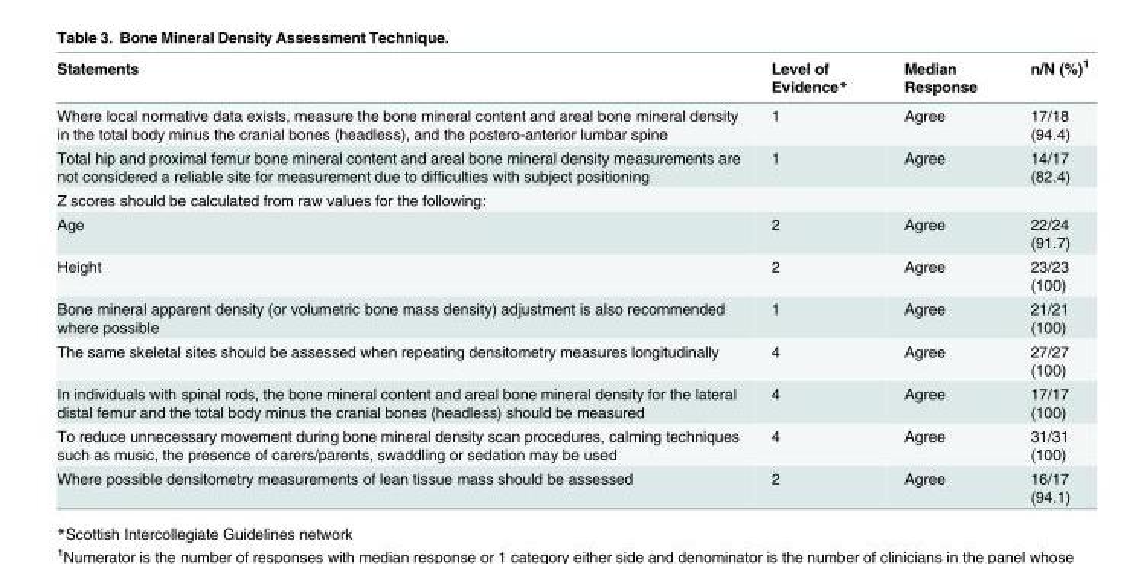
<table><thead><tr><td>Statements</td><td>Level of Evidence*</td><td>Median Response</td><td>n/N (%)<sup>1</sup></td></tr></thead><tbody><tr><td>Where local normative data exists, measure the bone mineral content and areal bone mineral density in the total body minus the cranial bones (headless), and the postero-anterior lumbar spine</td><td>1</td><td>Agree</td><td>17/18 (94.4)</td></tr><tr><td>Total hip and proximal femur bone mineral content and areal bone mineral density measurements are not considered a reliable site for measurement due to difficulties with subject positioning</td><td>1</td><td>Agree</td><td>14/17 (82.4)</td></tr><tr><td colspan="4">Z scores should be calculated from raw values for the following:</td></tr><tr><td>Age</td><td>2</td><td>Agree</td><td>22/24 (91.7)</td></tr><tr><td>Height</td><td>2</td><td>Agree</td><td>23/23 (100)</td></tr><tr><td>Bone mineral apparent density (or volumetric bone mass density) adjustment is also recommended where possible</td><td>1</td><td>Agree</td><td>21/21 (100)</td></tr><tr><td>The same skeletal sites should be assessed when repeating densitometry measures longitudinally</td><td>4</td><td>Agree</td><td>27/27 (100)</td></tr><tr><td>In individuals with spinal rods, the bone mineral content and areal bone mineral density for the lateral distal femur and the total body minus the cranial bones (headless) should be measured</td><td>4</td><td>Agree</td><td>17/17 (100)</td></tr><tr><td>To reduce unnecessary movement during bone mineral density scan procedures, calming techniques such as music, the presence of carers/parents, swaddling or sedation may be used</td><td>4</td><td>Agree</td><td>31/31 (100)</td></tr><tr><td>Where possible densitometry measurements of lean tissue mass should be assessed</td><td>2</td><td>Agree</td><td>16/17 (94.1)</td></tr></tbody></table>